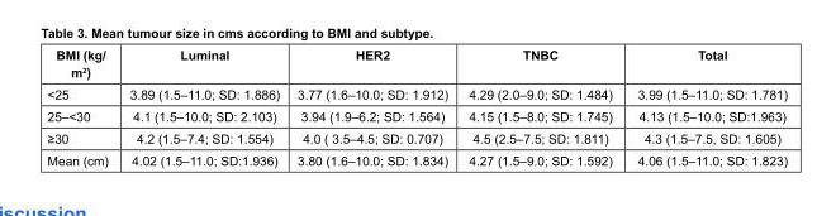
<table><thead><tr><td>BMI (kg/ m<sup>2</sup>)</td><td>Luminal</td><td>HER2</td><td>TNBC</td><td>Total</td></tr></thead><tbody><tr><td>&lt;25</td><td>3.89 (1.5–11.0; SD: 1.886)</td><td>3.77 (1.6–10.0; SD: 1.912)</td><td>4.29 (2.0–9.0; SD: 1.484)</td><td>3.99 (1.5–11.0; SD: 1.781)</td></tr><tr><td>25–&lt;30</td><td>4.1 (1.5–10.0; SD: 2.103)</td><td>3.94 (1.9–6.2; SD: 1.564)</td><td>4.15 (1.5–8.0; SD: 1.745)</td><td>4.13 (1.5–10.0; SD:1.963)</td></tr><tr><td>≥30</td><td>4.2 (1.5–7.4; SD: 1.554)</td><td>4.0 ( 3.5–4.5; SD: 0.707)</td><td>4.5 (2.5–7.5; SD: 1.811)</td><td>4.3 (1.5–7.5, SD: 1.605)</td></tr><tr><td>Mean (cm)</td><td>4.02 (1.5–11.0; SD:1.936)</td><td>3.80 (1.6–10.0; SD: 1.834)</td><td>4.27 (1.5–9.0; SD: 1.592)</td><td>4.06 (1.5–11.0; SD: 1.823)</td></tr></tbody></table>